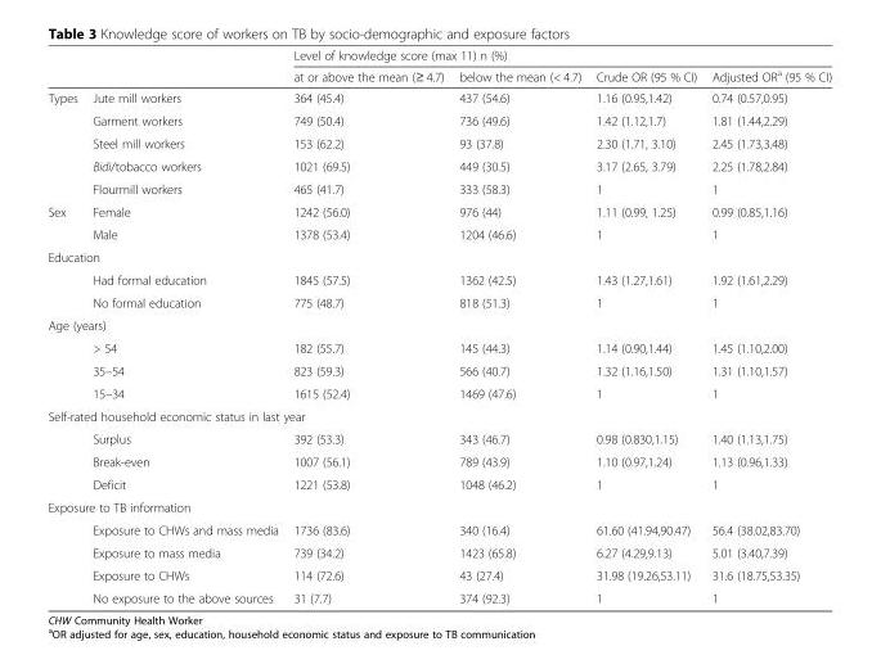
<table><thead><tr><td rowspan="2"></td><td rowspan="2"></td><td colspan="4">Level of knowledge score (max 11) n (%)</td></tr><tr><td>at or above the mean (≥ 4.7)</td><td>below the mean (&lt; 4.7)</td><td>Crude OR (95 % CI)</td><td>Adjusted OR<sup>a</sup> (95 % CI)</td></tr></thead><tbody><tr><td rowspan="5">Types</td><td>Jute mill workers</td><td>364 (45.4)</td><td>437 (54.6)</td><td>1.16 (0.95,1.42)</td><td>0.74 (0.57,0.95)</td></tr><tr><td>Garment workers</td><td>749 (50.4)</td><td>736 (49.6)</td><td>1.42 (1.12,1.7)</td><td>1.81 (1.44,2.29)</td></tr><tr><td>Steel mill workers</td><td>153 (62.2)</td><td>93 (37.8)</td><td>2.30 (1.71, 3.10)</td><td>2.45 (1.73,3.48)</td></tr><tr><td>Bidi/tobacco workers</td><td>1021 (69.5)</td><td>449 (30.5)</td><td>3.17 (2.65, 3.79)</td><td>2.25 (1.78,2.84)</td></tr><tr><td>Flourmill workers</td><td>465 (41.7)</td><td>333 (58.3)</td><td>1</td><td>1</td></tr><tr><td rowspan="2">Sex</td><td>Female</td><td>1242 (56.0)</td><td>976 (44)</td><td>1.11 (0.99, 1.25)</td><td>0.99 (0.85,1.16)</td></tr><tr><td>Male</td><td>1378 (53.4)</td><td>1204 (46.6)</td><td>1</td><td>1</td></tr><tr><td colspan="6">Education</td></tr><tr><td></td><td>Had formal education</td><td>1845 (57.5)</td><td>1362 (42.5)</td><td>1.43 (1.27,1.61)</td><td>1.92 (1.61,2.29)</td></tr><tr><td></td><td>No formal education</td><td>775 (48.7)</td><td>818 (51.3)</td><td>1</td><td>1</td></tr><tr><td colspan="6">Age (years)</td></tr><tr><td></td><td>&gt; 54</td><td>182 (55.7)</td><td>145 (44.3)</td><td>1.14 (0.90,1.44)</td><td>1.45 (1.10,2.00)</td></tr><tr><td></td><td>35–54</td><td>823 (59.3)</td><td>566 (40.7)</td><td>1.32 (1.16,1.50)</td><td>1.31 (1.10,1.57)</td></tr><tr><td></td><td>15–34</td><td>1615 (52.4)</td><td>1469 (47.6)</td><td>1</td><td>1</td></tr><tr><td colspan="6">Self-rated household economic status in last year</td></tr><tr><td></td><td>Surplus</td><td>392 (53.3)</td><td>343 (46.7)</td><td>0.98 (0.830,1.15)</td><td>1.40 (1.13,1.75)</td></tr><tr><td></td><td>Break-even</td><td>1007 (56.1)</td><td>789 (43.9)</td><td>1.10 (0.97,1.24)</td><td>1.13 (0.96,1.33)</td></tr><tr><td></td><td>Deficit</td><td>1221 (53.8)</td><td>1048 (46.2)</td><td>1</td><td>1</td></tr><tr><td colspan="6">Exposure to TB information</td></tr><tr><td></td><td>Exposure to CHWs and mass media</td><td>1736 (83.6)</td><td>340 (16.4)</td><td>61.60 (41.94,90.47)</td><td>56.4 (38.02,83.70)</td></tr><tr><td></td><td>Exposure to mass media</td><td>739 (34.2)</td><td>1423 (65.8)</td><td>6.27 (4.29,9.13)</td><td>5.01 (3.40,7.39)</td></tr><tr><td></td><td>Exposure to CHWs</td><td>114 (72.6)</td><td>43 (27.4)</td><td>31.98 (19.26,53.11)</td><td>31.6 (18.75,53.35)</td></tr><tr><td></td><td>No exposure to the above sources</td><td>31 (7.7)</td><td>374 (92.3)</td><td>1</td><td>1</td></tr></tbody></table>